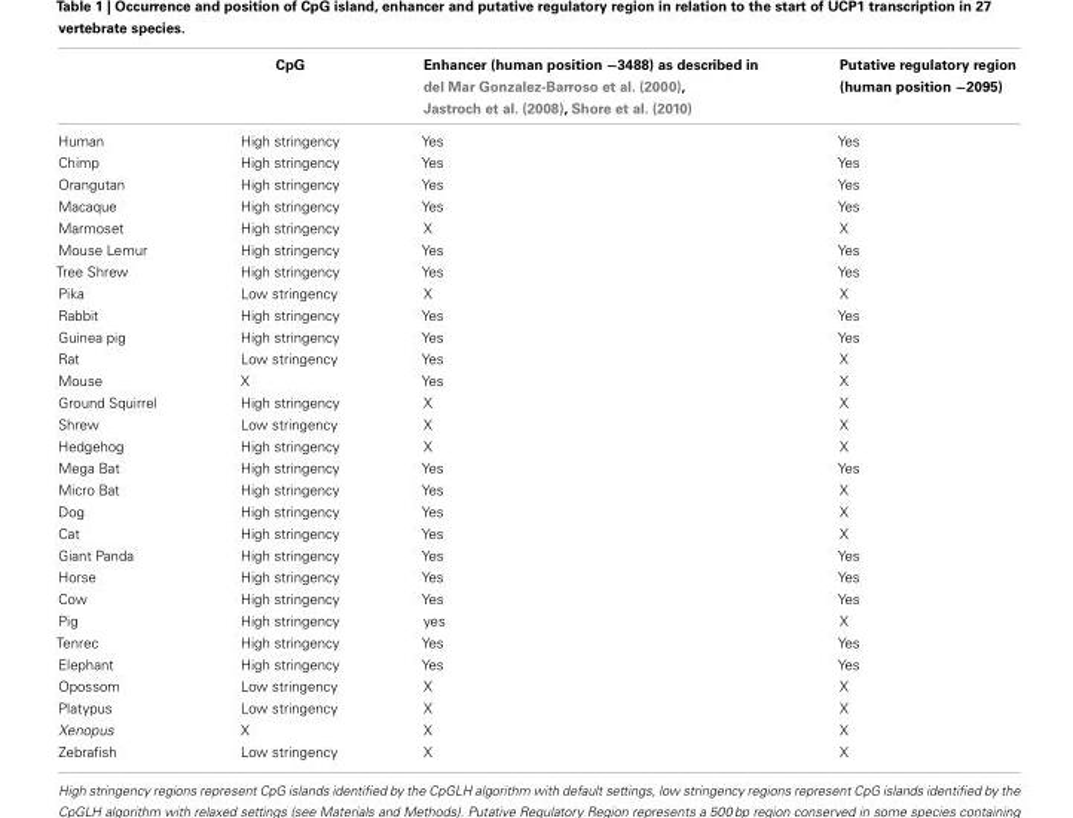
<table><thead><tr><td></td><td>CpG</td><td>Enhancer (human position −3488) as described in del Mar Gonzalez-Barroso et al. (2000), Jastroch et al. (2008), Shore et al. (2010)</td><td>Putative regulatory region (human position −2095)</td></tr></thead><tbody><tr><td>Human</td><td>High stringency</td><td>Yes</td><td>Yes</td></tr><tr><td>Chimp</td><td>High stringency</td><td>Yes</td><td>Yes</td></tr><tr><td>Orangutan</td><td>High stringency</td><td>Yes</td><td>Yes</td></tr><tr><td>Macaque</td><td>High stringency</td><td>Yes</td><td>Yes</td></tr><tr><td>Marmoset</td><td>High stringency</td><td>X</td><td>X</td></tr><tr><td>Mouse Lemur</td><td>High stringency</td><td>Yes</td><td>Yes</td></tr><tr><td>Tree Shrew</td><td>High stringency</td><td>Yes</td><td>Yes</td></tr><tr><td>Pika</td><td>Low stringency</td><td>X</td><td>X</td></tr><tr><td>Rabbit</td><td>High stringency</td><td>Yes</td><td>Yes</td></tr><tr><td>Guinea pig</td><td>High stringency</td><td>Yes</td><td>Yes</td></tr><tr><td>Rat</td><td>Low stringency</td><td>Yes</td><td>X</td></tr><tr><td>Mouse</td><td>X</td><td>Yes</td><td>X</td></tr><tr><td>Ground Squirrel</td><td>High stringency</td><td>X</td><td>X</td></tr><tr><td>Shrew</td><td>Low stringency</td><td>X</td><td>X</td></tr><tr><td>Hedgehog</td><td>High stringency</td><td>X</td><td>X</td></tr><tr><td>Mega Bat</td><td>High stringency</td><td>Yes</td><td>Yes</td></tr><tr><td>Micro Bat</td><td>High stringency</td><td>Yes</td><td>X</td></tr><tr><td>Dog</td><td>High stringency</td><td>Yes</td><td>X</td></tr><tr><td>Cat</td><td>High stringency</td><td>Yes</td><td>X</td></tr><tr><td>Giant Panda</td><td>High stringency</td><td>Yes</td><td>Yes</td></tr><tr><td>Horse</td><td>High stringency</td><td>Yes</td><td>Yes</td></tr><tr><td>Cow</td><td>High stringency</td><td>Yes</td><td>Yes</td></tr><tr><td>Pig</td><td>High stringency</td><td>yes</td><td>X</td></tr><tr><td>Tenrec</td><td>High stringency</td><td>Yes</td><td>Yes</td></tr><tr><td>Elephant</td><td>High stringency</td><td>Yes</td><td>Yes</td></tr><tr><td>Opossom</td><td>Low stringency</td><td>X</td><td>X</td></tr><tr><td>Platypus</td><td>Low stringency</td><td>X</td><td>X</td></tr><tr><td>Xenopus</td><td>X</td><td>X</td><td>X</td></tr><tr><td>Zebrafish</td><td>Low stringency</td><td>X</td><td>X</td></tr></tbody></table>